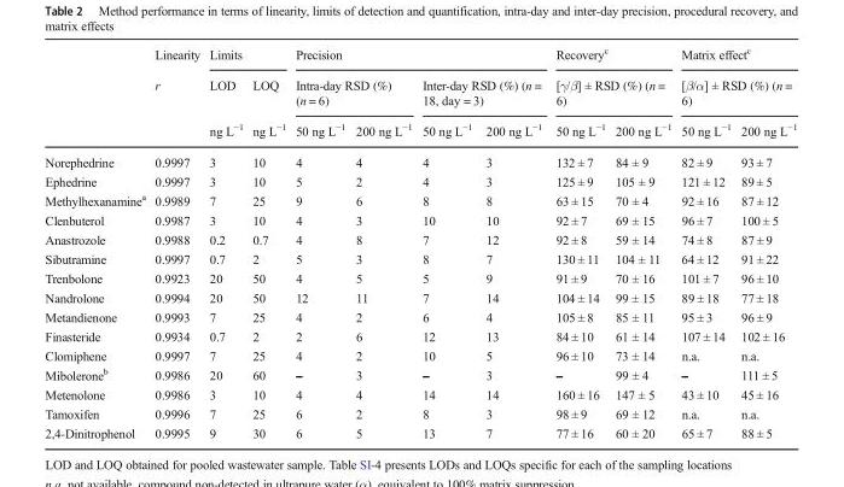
<table><thead><tr><td rowspan="3"></td><td rowspan="3">Linearity r</td><td colspan="2">Limits</td><td colspan="4">Precision</td><td rowspan="2" colspan="2">Recovery<sup>c</sup> [γ/β] ± RSD (%) (n = 6)</td><td rowspan="2" colspan="2">Matrix effect<sup>c</sup> [β/α] ± RSD (%) (n = 6)</td></tr><tr><td rowspan="2">LOD ng L<sup>−1</sup></td><td rowspan="2">LOQ ng L<sup>−1</sup></td><td colspan="2">Intra-day RSD (%) (n = 6)</td><td colspan="2">Inter-day RSD (%) (n = 18, day = 3)</td></tr><tr><td>50 ng L<sup>−1</sup></td><td>200 ng L<sup>−1</sup></td><td>50 ng L<sup>−1</sup></td><td>200 ng L<sup>−1</sup></td><td>50 ng L<sup>−1</sup></td><td>200 ng L<sup>−1</sup></td><td>50 ng L<sup>−1</sup></td><td>200 ng L<sup>−1</sup></td></tr></thead><tbody><tr><td>Norephedrine</td><td>0.9997</td><td>3</td><td>10</td><td>4</td><td>4</td><td>4</td><td>3</td><td>132 ± 7</td><td>84 ± 9</td><td>82 ± 9</td><td>93 ± 7</td></tr><tr><td>Ephedrine</td><td>0.9997</td><td>3</td><td>10</td><td>5</td><td>2</td><td>4</td><td>3</td><td>125 ± 9</td><td>105 ± 9</td><td>121 ± 12</td><td>89 ± 5</td></tr><tr><td>Methylhexanamine<sup>a</sup></td><td>0.9989</td><td>7</td><td>25</td><td>9</td><td>6</td><td>8</td><td>8</td><td>63 ± 15</td><td>70 ± 4</td><td>92 ± 16</td><td>87 ± 12</td></tr><tr><td>Clenbuterol</td><td>0.9987</td><td>3</td><td>10</td><td>4</td><td>3</td><td>10</td><td>10</td><td>92 ± 7</td><td>69 ± 15</td><td>96 ± 7</td><td>100 ± 5</td></tr><tr><td>Anastrozole</td><td>0.9988</td><td>0.2</td><td>0.7</td><td>4</td><td>8</td><td>7</td><td>12</td><td>92 ± 8</td><td>59 ± 14</td><td>74 ± 8</td><td>87 ± 9</td></tr><tr><td>Sibutramine</td><td>0.9997</td><td>0.7</td><td>2</td><td>5</td><td>3</td><td>8</td><td>7</td><td>130 ± 11</td><td>104 ± 11</td><td>64 ± 12</td><td>91 ± 22</td></tr><tr><td>Trenbolone</td><td>0.9923</td><td>20</td><td>50</td><td>4</td><td>5</td><td>5</td><td>9</td><td>91 ± 9</td><td>70 ± 16</td><td>101 ± 7</td><td>96 ± 10</td></tr><tr><td>Nandrolone</td><td>0.9994</td><td>20</td><td>50</td><td>12</td><td>11</td><td>7</td><td>14</td><td>104 ± 14</td><td>99 ± 15</td><td>89 ± 18</td><td>77 ± 18</td></tr><tr><td>Metandienone</td><td>0.9993</td><td>7</td><td>25</td><td>4</td><td>2</td><td>6</td><td>4</td><td>105 ± 8</td><td>85 ± 11</td><td>95 ± 3</td><td>96 ± 9</td></tr><tr><td>Finasteride</td><td>0.9934</td><td>0.7</td><td>2</td><td>2</td><td>6</td><td>12</td><td>13</td><td>84 ± 10</td><td>61 ± 14</td><td>107 ± 14</td><td>102 ± 16</td></tr><tr><td>Clomiphene</td><td>0.9997</td><td>7</td><td>25</td><td>4</td><td>2</td><td>10</td><td>5</td><td>96 ± 10</td><td>73 ± 14</td><td>n.a.</td><td>n.a.</td></tr><tr><td>Mibolerone<sup>b</sup></td><td>0.9986</td><td>20</td><td>60</td><td>–</td><td>3</td><td>–</td><td>3</td><td>–</td><td>99 ± 4</td><td>–</td><td>111 ± 5</td></tr><tr><td>Metenolone</td><td>0.9986</td><td>3</td><td>10</td><td>4</td><td>4</td><td>14</td><td>14</td><td>160 ± 16</td><td>147 ± 5</td><td>43 ± 10</td><td>45 ± 16</td></tr><tr><td>Tamoxifen</td><td>0.9996</td><td>7</td><td>25</td><td>6</td><td>2</td><td>8</td><td>3</td><td>98 ± 9</td><td>69 ± 12</td><td>n.a.</td><td>n.a.</td></tr><tr><td>2,4-Dinitrophenol</td><td>0.9995</td><td>9</td><td>30</td><td>6</td><td>5</td><td>13</td><td>7</td><td>77 ± 16</td><td>60 ± 20</td><td>65 ± 7</td><td>88 ± 5</td></tr></tbody></table>